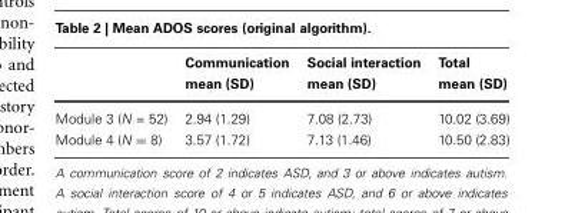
<table><thead><tr><td></td><td>Communication mean (SD)</td><td>Social interaction mean (SD)</td><td>Total mean (SD)</td></tr></thead><tbody><tr><td>Module 3 (N = 52)</td><td>2.94 (1.29)</td><td>7.08 (2.73)</td><td>10.02 (3.69)</td></tr><tr><td>Module 4 (N = 8)</td><td>3.57 (1.72)</td><td>7.13 (1.46)</td><td>10.50 (2.83)</td></tr></tbody></table>